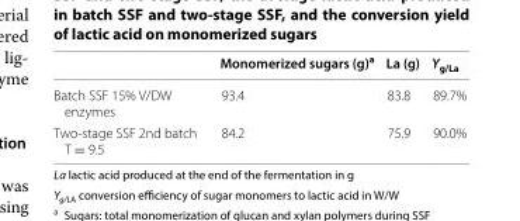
<table><thead><tr><td></td><td>Monomerized sugars (g)<sup>a</sup></td><td>La (g)</td><td>Y<sub>g/La</sub></td></tr></thead><tbody><tr><td>Batch SSF 15% V/DW enzymes</td><td>93.4</td><td>83.8</td><td>89.7%</td></tr><tr><td>Two-stage SSF 2nd batch T = 9.5</td><td>84.2</td><td>75.9</td><td>90.0%</td></tr></tbody></table>